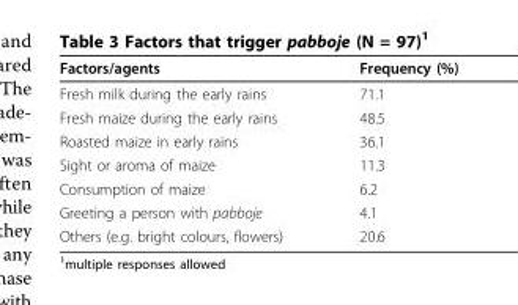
<table><thead><tr><td>Factors/agents</td><td>Frequency (%)</td></tr></thead><tbody><tr><td>Fresh milk during the early rains</td><td>71.1</td></tr><tr><td>Fresh maize during the early rains</td><td>48.5</td></tr><tr><td>Roasted maize in early rains</td><td>36.1</td></tr><tr><td>Sight or aroma of maize</td><td>11.3</td></tr><tr><td>Consumption of maize</td><td>6.2</td></tr><tr><td>Greeting a person with pabboje</td><td>4.1</td></tr><tr><td>Others (e.g. bright colours, flowers)</td><td>20.6</td></tr></tbody></table>